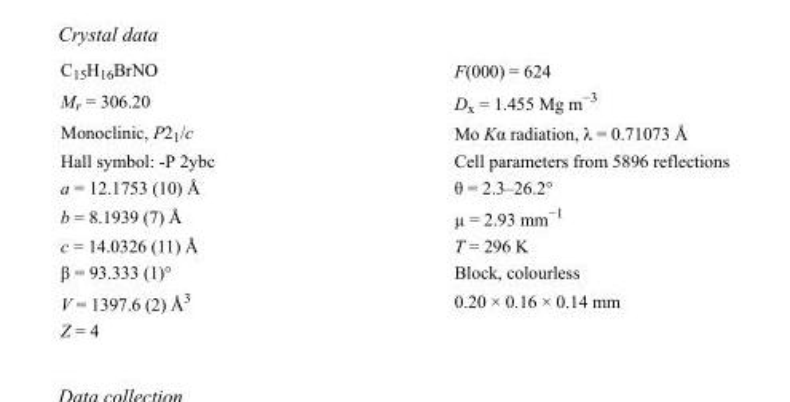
<table><tbody><tr><td>C<sub>15</sub>H<sub>16</sub>BrNO</td><td>F(000) = 624</td></tr><tr><td>M<sub>r</sub> = 306.20</td><td>D<sub>x</sub> = 1.455 Mg m<sup>−3</sup></td></tr><tr><td>Monoclinic, P2<sub>1</sub>/c</td><td>Mo Kα radiation, λ = 0.71073 Å</td></tr><tr><td>Hall symbol: -P 2ybc</td><td>Cell parameters from 5896 reflections</td></tr><tr><td>a = 12.1753 (10) Å</td><td>θ = 2.3–26.2°</td></tr><tr><td>b = 8.1939 (7) Å</td><td>µ = 2.93 mm<sup>−1</sup></td></tr><tr><td>c = 14.0326 (11) Å</td><td>T = 296 K</td></tr><tr><td>β = 93.333 (1)°</td><td>Block, colourless</td></tr><tr><td>V = 1397.6 (2) Å<sup>3</sup></td><td>0.20 × 0.16 × 0.14 mm</td></tr><tr><td>Z = 4</td><td></td></tr></tbody></table>